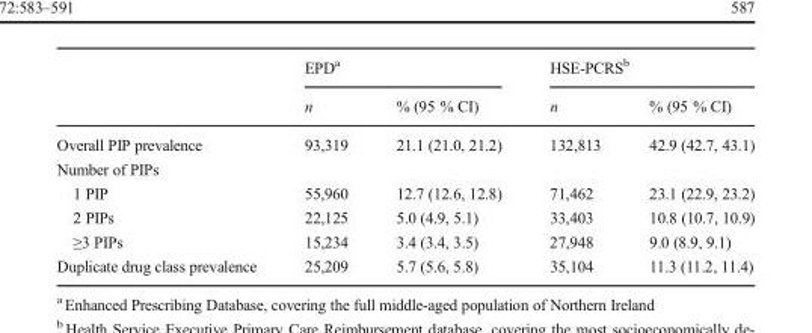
<table><thead><tr><td rowspan="2"></td><td colspan="2">EPD<sup>a</sup></td><td colspan="2">HSE-PCRS<sup>b</sup></td></tr><tr><td>n</td><td>% (95 % CI)</td><td>n</td><td>% (95 % CI)</td></tr></thead><tbody><tr><td>Overall PIP prevalence</td><td>93,319</td><td>21.1 (21.0, 21.2)</td><td>132,813</td><td>42.9 (42.7, 43.1)</td></tr><tr><td colspan="5">Number of PIPs</td></tr><tr><td>1 PIP</td><td>55,960</td><td>12.7 (12.6, 12.8)</td><td>71,462</td><td>23.1 (22.9, 23.2)</td></tr><tr><td>2 PIPs</td><td>22,125</td><td>5.0 (4.9, 5.1)</td><td>33,403</td><td>10.8 (10.7, 10.9)</td></tr><tr><td>≥3 PIPs</td><td>15,234</td><td>3.4 (3.4, 3.5)</td><td>27,948</td><td>9.0 (8.9, 9.1)</td></tr><tr><td>Duplicate drug class prevalence</td><td>25,209</td><td>5.7 (5.6, 5.8)</td><td>35,104</td><td>11.3 (11.2, 11.4)</td></tr></tbody></table>